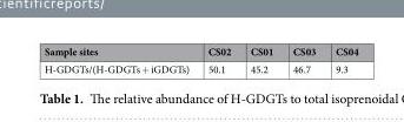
<table><thead><tr><td>Sample sites</td><td>CS02</td><td>CS01</td><td>CS03</td><td>CS04</td></tr></thead><tbody><tr><td>H-GDGTs/(H-GDGTs + iGDGTs)</td><td>50.1</td><td>45.2</td><td>46.7</td><td>9.3</td></tr></tbody></table>